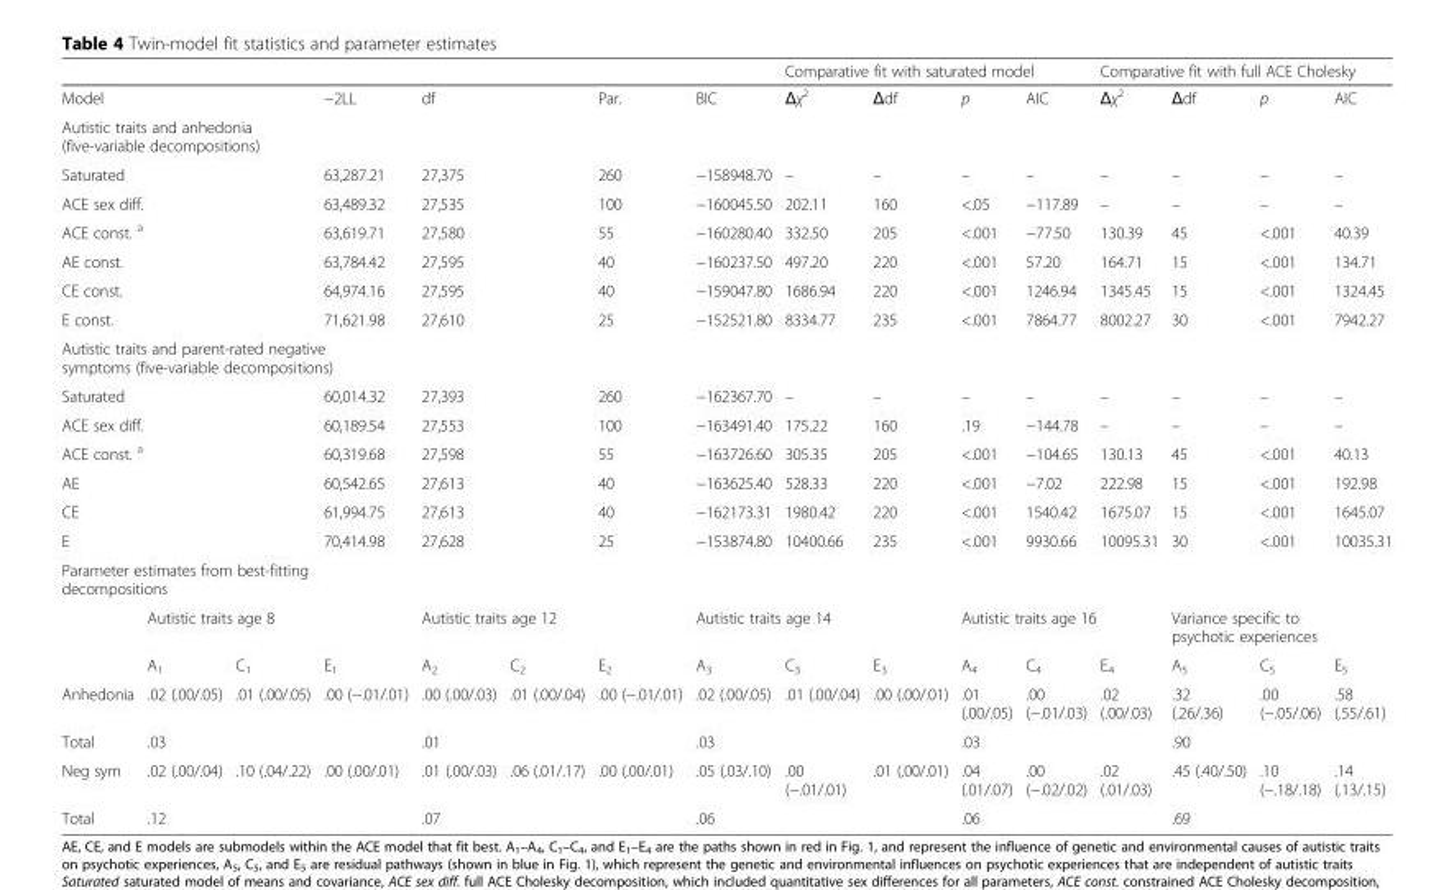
<table><thead><tr><td></td><td></td><td></td><td rowspan="2">−2LL</td><td></td><td></td><td rowspan="2">Par.</td><td rowspan="2">BIC</td><td colspan="4">Comparative fit with saturated model</td><td colspan="4">Comparative fit with full ACE Cholesky</td></tr><tr><td colspan="3">Model</td><td colspan="2">df</td><td>Δχ<sup>2</sup></td><td>Δdf</td><td>p</td><td>AIC</td><td>Δχ<sup>2</sup></td><td>Δdf</td><td>p</td><td>AIC</td></tr></thead><tbody><tr><td colspan="16">Autistic traits and anhedonia (five-variable decompositions)</td></tr><tr><td colspan="3">Saturated</td><td>63,287.21</td><td colspan="2">27,375</td><td>260</td><td>−158948.70</td><td>–</td><td>–</td><td>–</td><td>–</td><td>–</td><td>–</td><td>–</td><td>–</td></tr><tr><td colspan="3">ACE sex diff.</td><td>63,489.32</td><td colspan="2">27,535</td><td>100</td><td>−160045.50</td><td>202.11</td><td>160</td><td>&lt;.05</td><td>−117.89</td><td>–</td><td>–</td><td>–</td><td>–</td></tr><tr><td colspan="3">ACE const. <sup>a</sup></td><td>63,619.71</td><td colspan="2">27,580</td><td>55</td><td>−160280.40</td><td>332.50</td><td>205</td><td>&lt;.001</td><td>−77.50</td><td>130.39</td><td>45</td><td>&lt;.001</td><td>40.39</td></tr><tr><td colspan="3">AE const.</td><td>63,784.42</td><td colspan="2">27,595</td><td>40</td><td>−160237.50</td><td>497.20</td><td>220</td><td>&lt;.001</td><td>57.20</td><td>164.71</td><td>15</td><td>&lt;.001</td><td>134.71</td></tr><tr><td colspan="3">CE const.</td><td>64,974.16</td><td colspan="2">27,595</td><td>40</td><td>−159047.80</td><td>1686.94</td><td>220</td><td>&lt;.001</td><td>1246.94</td><td>1345.45</td><td>15</td><td>&lt;.001</td><td>1324.45</td></tr><tr><td colspan="3">E const.</td><td>71,621.98</td><td colspan="2">27,610</td><td>25</td><td>−152521.80</td><td>8334.77</td><td>235</td><td>&lt;.001</td><td>7864.77</td><td>8002.27</td><td>30</td><td>&lt;.001</td><td>7942.27</td></tr><tr><td colspan="16">Autistic traits and parent-rated negative symptoms (five-variable decompositions)</td></tr><tr><td colspan="3">Saturated</td><td>60,014.32</td><td colspan="2">27,393</td><td>260</td><td>−162367.70</td><td>–</td><td>–</td><td>–</td><td>–</td><td>–</td><td>–</td><td>–</td><td>–</td></tr><tr><td colspan="3">ACE sex diff.</td><td>60,189.54</td><td colspan="2">27,553</td><td>100</td><td>−163491.40</td><td>175.22</td><td>160</td><td>.19</td><td>−144.78</td><td>–</td><td>–</td><td>–</td><td>–</td></tr><tr><td colspan="3">ACE const. <sup>a</sup></td><td>60,319.68</td><td colspan="2">27,598</td><td>55</td><td>−163726.60</td><td>305.35</td><td>205</td><td>&lt;.001</td><td>−104.65</td><td>130.13</td><td>45</td><td>&lt;.001</td><td>40.13</td></tr><tr><td colspan="3">AE</td><td>60,542.65</td><td colspan="2">27,613</td><td>40</td><td>−163625.40</td><td>528.33</td><td>220</td><td>&lt;.001</td><td>−7.02</td><td>222.98</td><td>15</td><td>&lt;.001</td><td>192.98</td></tr><tr><td colspan="3">CE</td><td>61,994.75</td><td colspan="2">27,613</td><td>40</td><td>−162173.31</td><td>1980.42</td><td>220</td><td>&lt;.001</td><td>1540.42</td><td>1675.07</td><td>15</td><td>&lt;.001</td><td>1645.07</td></tr><tr><td colspan="3">E</td><td>70,414.98</td><td colspan="2">27,628</td><td>25</td><td>−153874.80</td><td>10400.66</td><td>235</td><td>&lt;.001</td><td>9930.66</td><td>10095.31</td><td>30</td><td>&lt;.001</td><td>10035.31</td></tr><tr><td colspan="16">Parameter estimates from best-fitting decompositions</td></tr><tr><td></td><td colspan="3">Autistic traits age 8</td><td colspan="3">Autistic traits age 12</td><td colspan="3">Autistic traits age 14</td><td colspan="3">Autistic traits age 16</td><td colspan="3">Variance specific to psychotic experiences</td></tr><tr><td></td><td>A<sub>1</sub></td><td>C<sub>1</sub></td><td>E<sub>1</sub></td><td>A<sub>2</sub></td><td>C<sub>2</sub></td><td>E<sub>2</sub></td><td>A<sub>3</sub></td><td>C<sub>3</sub></td><td>E<sub>3</sub></td><td>A<sub>4</sub></td><td>C<sub>4</sub></td><td>E<sub>4</sub></td><td>A<sub>5</sub></td><td>C<sub>5</sub></td><td>E<sub>5</sub></td></tr><tr><td>Anhedonia</td><td>.02 (.00/.05)</td><td>.01 (.00/.05)</td><td>.00 (−.01/.01)</td><td>.00 (.00/.03)</td><td>.01 (.00/.04)</td><td>.00 (−.01/.01)</td><td>.02 (.00/.05)</td><td>.01 (.00/.04)</td><td>.00 (.00/.01)</td><td>.01 (.00/.05)</td><td>.00 (−.01/.03)</td><td>.02 (.00/.03)</td><td>.32 (.26/.36)</td><td>.00 (−.05/.06)</td><td>.58 (.55/.61)</td></tr><tr><td>Total</td><td colspan="3">.03</td><td colspan="3">.01</td><td colspan="3">.03</td><td colspan="3">.03</td><td colspan="3">.90</td></tr><tr><td>Neg sym</td><td>.02 (.00/.04)</td><td>.10 (.04/.22)</td><td>.00 (.00/.01)</td><td>.01 (.00/.03)</td><td>.06 (.01/.17)</td><td>.00 (.00/.01)</td><td>.05 (.03/.10)</td><td>.00 (−.01/.01)</td><td>.01 (.00/.01)</td><td>.04 (.01/.07)</td><td>.00 (−.02/.02)</td><td>.02 (.01/.03)</td><td>.45 (.40/.50)</td><td>.10 (−.18/.18)</td><td>.14 (.13/.15)</td></tr><tr><td>Total</td><td colspan="3">.12</td><td colspan="3">.07</td><td colspan="3">.06</td><td colspan="3">.06</td><td colspan="3">.69</td></tr></tbody></table>